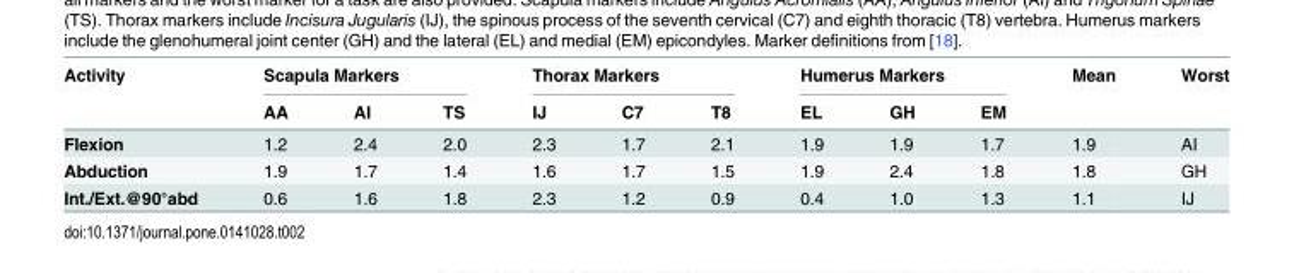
<table><thead><tr><td rowspan="2">Activity</td><td colspan="3">Scapula Markers</td><td colspan="3">Thorax Markers</td><td colspan="3">Humerus Markers</td><td rowspan="2">Mean</td><td rowspan="2">Worst</td></tr><tr><td>AA</td><td>AI</td><td>TS</td><td>IJ</td><td>C7</td><td>T8</td><td>EL</td><td>GH</td><td>EM</td></tr></thead><tbody><tr><td>Flexion</td><td>1.2</td><td>2.4</td><td>2.0</td><td>2.3</td><td>1.7</td><td>2.1</td><td>1.9</td><td>1.9</td><td>1.7</td><td>1.9</td><td>AI</td></tr><tr><td>Abduction</td><td>1.9</td><td>1.7</td><td>1.4</td><td>1.6</td><td>1.7</td><td>1.5</td><td>1.9</td><td>2.4</td><td>1.8</td><td>1.8</td><td>GH</td></tr><tr><td>Int./Ext.@90°abd</td><td>0.6</td><td>1.6</td><td>1.8</td><td>2.3</td><td>1.2</td><td>0.9</td><td>0.4</td><td>1.0</td><td>1.3</td><td>1.1</td><td>IJ</td></tr></tbody></table>